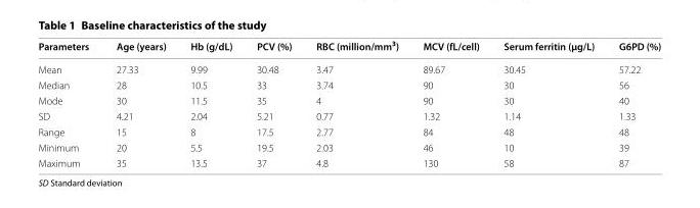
<table><thead><tr><td>Parameters</td><td>Age (years)</td><td>Hb (g/dL)</td><td>PCV (%)</td><td>RBC (million/mm<sup>3</sup>)</td><td>MCV (fL/cell)</td><td>Serum ferritin (μg/L)</td><td>G6PD (%)</td></tr></thead><tbody><tr><td>Mean</td><td>27.33</td><td>9.99</td><td>30.48</td><td>3.47</td><td>89.67</td><td>30.45</td><td>57.22</td></tr><tr><td>Median</td><td>28</td><td>10.5</td><td>33</td><td>3.74</td><td>90</td><td>30</td><td>56</td></tr><tr><td>Mode</td><td>30</td><td>11.5</td><td>35</td><td>4</td><td>90</td><td>30</td><td>40</td></tr><tr><td>SD</td><td>4.21</td><td>2.04</td><td>5.21</td><td>0.77</td><td>1.32</td><td>1.14</td><td>1.33</td></tr><tr><td>Range</td><td>15</td><td>8</td><td>17.5</td><td>2.77</td><td>84</td><td>48</td><td>48</td></tr><tr><td>Minimum</td><td>20</td><td>5.5</td><td>19.5</td><td>2.03</td><td>46</td><td>10</td><td>39</td></tr><tr><td>Maximum</td><td>35</td><td>13.5</td><td>37</td><td>4.8</td><td>130</td><td>58</td><td>87</td></tr></tbody></table>